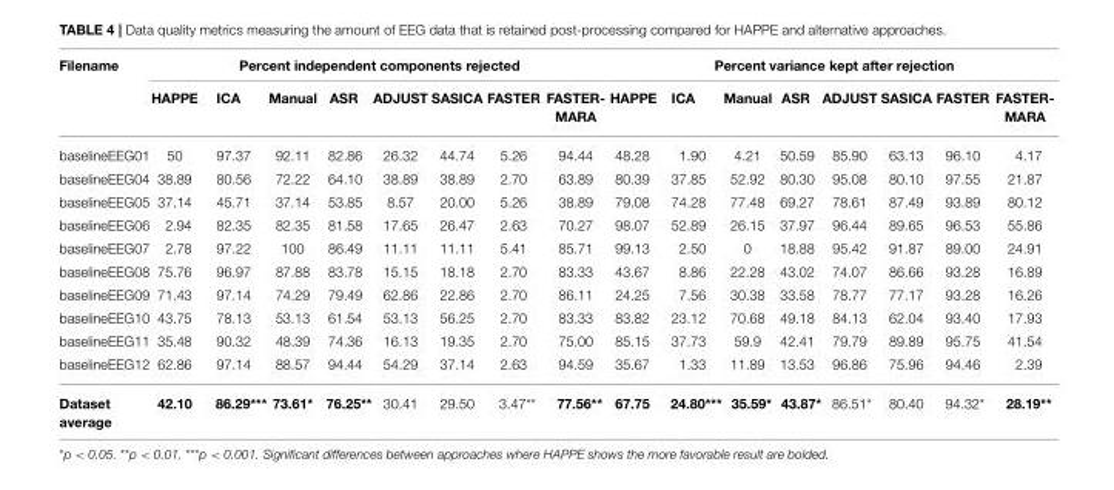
<table><thead><tr><td rowspan="2">Filename</td><td colspan="8">Percent independent components rejected</td><td colspan="8">Percent variance kept after rejection</td></tr><tr><td>HAPPE</td><td>ICA</td><td>Manual</td><td>ASR</td><td>ADJUST</td><td>SASICA</td><td>FASTER</td><td>FASTER- MARA</td><td>HAPPE</td><td>ICA</td><td>Manual</td><td>ASR</td><td>ADJUST</td><td>SASICA</td><td>FASTER</td><td>FASTER- MARA</td></tr></thead><tbody><tr><td>baselineEEG01</td><td>50</td><td>97.37</td><td>92.11</td><td>82.86</td><td>26.32</td><td>44.74</td><td>5.26</td><td>94.44</td><td>48.28</td><td>1.90</td><td>4.21</td><td>50.59</td><td>85.90</td><td>63.13</td><td>96.10</td><td>4.17</td></tr><tr><td>baselineEEG04</td><td>38.89</td><td>80.56</td><td>72.22</td><td>64.10</td><td>38.89</td><td>38.89</td><td>2.70</td><td>63.89</td><td>80.39</td><td>37.85</td><td>52.92</td><td>80.30</td><td>95.08</td><td>80.10</td><td>97.55</td><td>21.87</td></tr><tr><td>baselineEEG05</td><td>37.14</td><td>45.71</td><td>37.14</td><td>53.85</td><td>8.57</td><td>20.00</td><td>5.26</td><td>38.89</td><td>79.08</td><td>74.28</td><td>77.48</td><td>69.27</td><td>78.61</td><td>87.49</td><td>93.89</td><td>80.12</td></tr><tr><td>baselineEEG06</td><td>2.94</td><td>82.35</td><td>82.35</td><td>81.58</td><td>17.65</td><td>26.47</td><td>2.63</td><td>70.27</td><td>98.07</td><td>52.89</td><td>26.15</td><td>37.97</td><td>96.44</td><td>89.65</td><td>96.53</td><td>55.86</td></tr><tr><td>baselineEEG07</td><td>2.78</td><td>97.22</td><td>100</td><td>86.49</td><td>11.11</td><td>11.11</td><td>5.41</td><td>85.71</td><td>99.13</td><td>2.50</td><td>0</td><td>18.88</td><td>95.42</td><td>91.87</td><td>89.00</td><td>24.91</td></tr><tr><td>baselineEEG08</td><td>75.76</td><td>96.97</td><td>87.88</td><td>83.78</td><td>15.15</td><td>18.18</td><td>2.70</td><td>83.33</td><td>43.67</td><td>8.86</td><td>22.28</td><td>43.02</td><td>74.07</td><td>86.66</td><td>93.28</td><td>16.89</td></tr><tr><td>baselineEEG09</td><td>71.43</td><td>97.14</td><td>74.29</td><td>79.49</td><td>62.86</td><td>22.86</td><td>2.70</td><td>86.11</td><td>24.25</td><td>7.56</td><td>30.38</td><td>33.58</td><td>78.77</td><td>77.17</td><td>93.28</td><td>16.26</td></tr><tr><td>baselineEEG10</td><td>43.75</td><td>78.13</td><td>53.13</td><td>61.54</td><td>53.13</td><td>56.25</td><td>2.70</td><td>83.33</td><td>83.82</td><td>23.12</td><td>70.68</td><td>49.18</td><td>84.13</td><td>62.04</td><td>93.40</td><td>17.93</td></tr><tr><td>baselineEEG11</td><td>35.48</td><td>90.32</td><td>48.39</td><td>74.36</td><td>16.13</td><td>19.35</td><td>2.70</td><td>75.00</td><td>85.15</td><td>37.73</td><td>59.9</td><td>42.41</td><td>79.79</td><td>89.89</td><td>95.75</td><td>41.54</td></tr><tr><td>baselineEEG12</td><td>62.86</td><td>97.14</td><td>88.57</td><td>94.44</td><td>54.29</td><td>37.14</td><td>2.63</td><td>94.59</td><td>35.67</td><td>1.33</td><td>11.89</td><td>13.53</td><td>96.86</td><td>75.96</td><td>94.46</td><td>2.39</td></tr><tr><td>Dataset average</td><td>42.10</td><td>86.29***</td><td>73.61*</td><td>76.25**</td><td>30.41</td><td>29.50</td><td>3.47**</td><td>77.56**</td><td>67.75</td><td>24.80***</td><td>35.59*</td><td>43.87*</td><td>86.51*</td><td>80.40</td><td>94.32*</td><td>28.19**</td></tr></tbody></table>